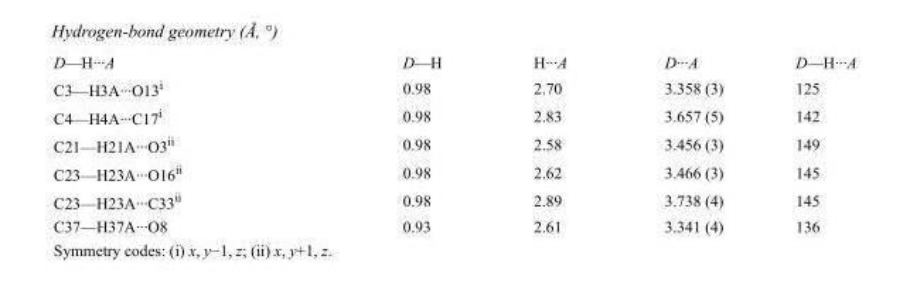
<table><tbody><tr><td>D—H···A</td><td>D—H</td><td>H···A</td><td>D···A</td><td>D—H···A</td></tr><tr><td>C3—H3A···O13<sup>i</sup></td><td>0.98</td><td>2.70</td><td>3.358 (3)</td><td>125</td></tr><tr><td>C4—H4A···C17<sup>i</sup></td><td>0.98</td><td>2.83</td><td>3.657 (5)</td><td>142</td></tr><tr><td>C21—H21A···O3<sup>ii</sup></td><td>0.98</td><td>2.58</td><td>3.456 (3)</td><td>149</td></tr><tr><td>C23—H23A···O16<sup>ii</sup></td><td>0.98</td><td>2.62</td><td>3.466 (3)</td><td>145</td></tr><tr><td>C23—H23A···C33<sup>ii</sup></td><td>0.98</td><td>2.89</td><td>3.738 (4)</td><td>145</td></tr><tr><td>C37—H37A···O8</td><td>0.93</td><td>2.61</td><td>3.341 (4)</td><td>136</td></tr></tbody></table>